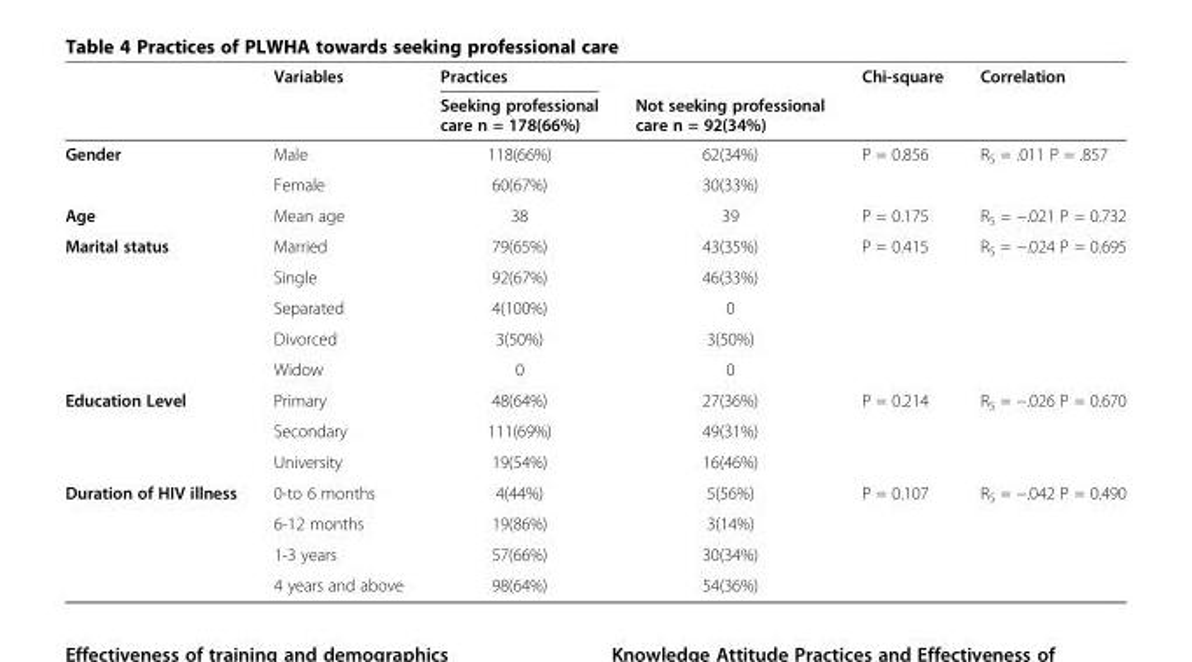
<table><thead><tr><td rowspan="2"></td><td rowspan="2">Variables</td><td rowspan="2">Practices Seeking professional care n = 178(66%)</td><td rowspan="2">Not seeking professional care n = 92(34%)</td><td rowspan="2">Chi-square</td><td rowspan="2">Correlation</td></tr><tr></tr></thead><tbody><tr><td rowspan="2">Gender</td><td>Male</td><td>118(66%)</td><td>62(34%)</td><td>P = 0.856</td><td>R<sub>S</sub> = .011 P = .857</td></tr><tr><td>Female</td><td>60(67%)</td><td>30(33%)</td><td></td><td></td></tr><tr><td>Age</td><td>Mean age</td><td>38</td><td>39</td><td>P = 0.175</td><td>R<sub>S</sub> = −.021 P = 0.732</td></tr><tr><td rowspan="5">Marital status</td><td>Married</td><td>79(65%)</td><td>43(35%)</td><td>P = 0.415</td><td>R<sub>S</sub> = −.024 P = 0.695</td></tr><tr><td>Single</td><td>92(67%)</td><td>46(33%)</td><td></td><td></td></tr><tr><td>Separated</td><td>4(100%)</td><td>0</td><td></td><td></td></tr><tr><td>Divorced</td><td>3(50%)</td><td>3(50%)</td><td></td><td></td></tr><tr><td>Widow</td><td>0</td><td>0</td><td></td><td></td></tr><tr><td rowspan="3">Education Level</td><td>Primary</td><td>48(64%)</td><td>27(36%)</td><td>P = 0.214</td><td>R<sub>S</sub> = −.026 P = 0.670</td></tr><tr><td>Secondary</td><td>111(69%)</td><td>49(31%)</td><td></td><td></td></tr><tr><td>University</td><td>19(54%)</td><td>16(46%)</td><td></td><td></td></tr><tr><td rowspan="4">Duration of HIV illness</td><td>0-to 6 months</td><td>4(44%)</td><td>5(56%)</td><td>P = 0.107</td><td>R<sub>S</sub> = −.042 P = 0.490</td></tr><tr><td>6-12 months</td><td>19(86%)</td><td>3(14%)</td><td></td><td></td></tr><tr><td>1-3 years</td><td>57(66%)</td><td>30(34%)</td><td></td><td></td></tr><tr><td>4 years and above</td><td>98(64%)</td><td>54(36%)</td><td></td><td></td></tr></tbody></table>